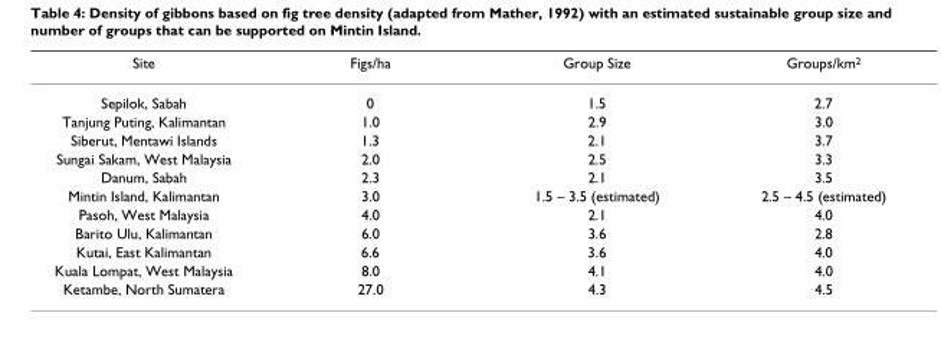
<table><thead><tr><td>Site</td><td>Figs/ha</td><td>Group Size</td><td>Groups/km2</td></tr></thead><tbody><tr><td>Sepilok, Sabah</td><td>0</td><td>1.5</td><td>2.7</td></tr><tr><td>Tanjung Puting, Kalimantan</td><td>1.0</td><td>2.9</td><td>3.0</td></tr><tr><td>Siberut, Mentawi Islands</td><td>1.3</td><td>2.1</td><td>3.7</td></tr><tr><td>Sungai Sakam, West Malaysia</td><td>2.0</td><td>2.5</td><td>3.3</td></tr><tr><td>Danum, Sabah</td><td>2.3</td><td>2.1</td><td>3.5</td></tr><tr><td>Mintin Island, Kalimantan</td><td>3.0</td><td>1.5 – 3.5 (estimated)</td><td>2.5 – 4.5 (estimated)</td></tr><tr><td>Pasoh, West Malaysia</td><td>4.0</td><td>2.1</td><td>4.0</td></tr><tr><td>Barito Ulu, Kalimantan</td><td>6.0</td><td>3.6</td><td>2.8</td></tr><tr><td>Kutai, East Kalimantan</td><td>6.6</td><td>3.6</td><td>4.0</td></tr><tr><td>Kuala Lompat, West Malaysia</td><td>8.0</td><td>4.1</td><td>4.0</td></tr><tr><td>Ketambe, North Sumatera</td><td>27.0</td><td>4.3</td><td>4.5</td></tr></tbody></table>